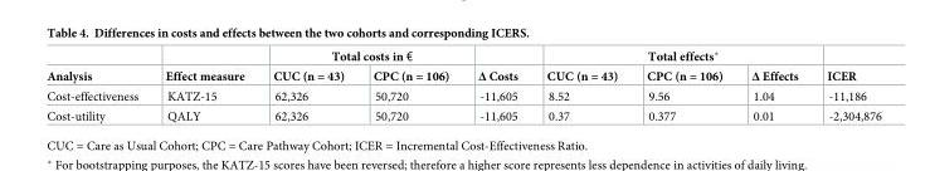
<table><thead><tr><td rowspan="2">Analysis</td><td rowspan="2">Effect measure</td><td colspan="2">Total costs in €</td><td rowspan="2">Δ Costs</td><td colspan="3">Total effects*</td><td rowspan="2">ICER</td></tr><tr><td>CUC (n = 43)</td><td>CPC (n = 106)</td><td>CUC (n = 43)</td><td>CPC (n = 106)</td><td>Δ Effects</td></tr></thead><tbody><tr><td>Cost-effectiveness</td><td>KATZ-15</td><td>62,326</td><td>50,720</td><td>-11,605</td><td>8.52</td><td>9.56</td><td>1.04</td><td>-11,186</td></tr><tr><td>Cost-utility</td><td>QALY</td><td>62,326</td><td>50,720</td><td>-11,605</td><td>0.37</td><td>0.377</td><td>0.01</td><td>-2,304,876</td></tr></tbody></table>